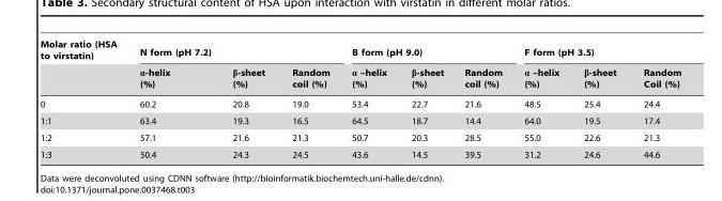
<table><thead><tr><td rowspan="2">Molar ratio (HSA to virstatin)</td><td colspan="3">N form (pH 7.2)</td><td colspan="3">B form (pH 9.0)</td><td colspan="3">F form (pH 3.5)</td></tr><tr><td>α-helix (%)</td><td>β-sheet (%)</td><td>Random coil (%)</td><td>α –helix (%)</td><td>β-sheet (%)</td><td>Random coil (%)</td><td>α –helix (%)</td><td>β-sheet (%)</td><td>Random Coil (%)</td></tr></thead><tbody><tr><td>0</td><td>60.2</td><td>20.8</td><td>19.0</td><td>53.4</td><td>22.7</td><td>21.6</td><td>48.5</td><td>25.4</td><td>24.4</td></tr><tr><td>1:1</td><td>63.4</td><td>19.3</td><td>16.5</td><td>64.5</td><td>18.7</td><td>14.4</td><td>64.0</td><td>19.5</td><td>17.4</td></tr><tr><td>1:2</td><td>57.1</td><td>21.6</td><td>21.3</td><td>50.7</td><td>20.3</td><td>28.5</td><td>55.0</td><td>22.6</td><td>21.3</td></tr><tr><td>1:3</td><td>50.4</td><td>24.3</td><td>24.5</td><td>43.6</td><td>14.5</td><td>39.5</td><td>31.2</td><td>24.6</td><td>44.6</td></tr></tbody></table>